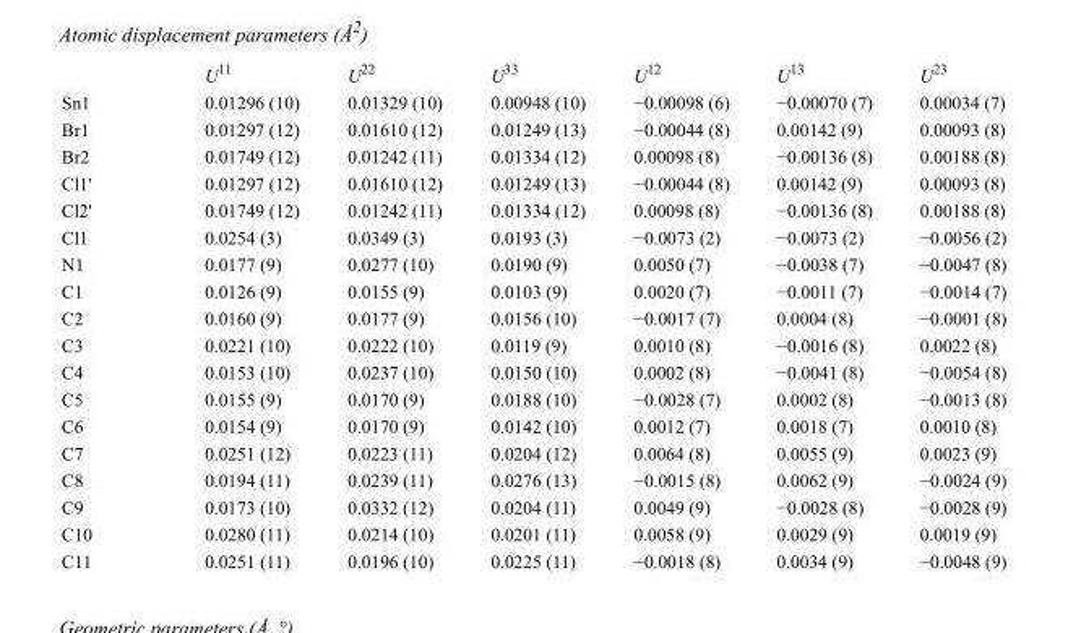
<table><thead><tr><td></td><td>U<sup>11</sup></td><td>U<sup>22</sup></td><td>U<sup>33</sup></td><td>U<sup>12</sup></td><td>U<sup>13</sup></td><td>U<sup>23</sup></td></tr></thead><tbody><tr><td>Sn1</td><td>0.01296 (10)</td><td>0.01329 (10)</td><td>0.00948 (10)</td><td>−0.00098 (6)</td><td>−0.00070 (7)</td><td>0.00034 (7)</td></tr><tr><td>Br1</td><td>0.01297 (12)</td><td>0.01610 (12)</td><td>0.01249 (13)</td><td>−0.00044 (8)</td><td>0.00142 (9)</td><td>0.00093 (8)</td></tr><tr><td>Br2</td><td>0.01749 (12)</td><td>0.01242 (11)</td><td>0.01334 (12)</td><td>0.00098 (8)</td><td>−0.00136 (8)</td><td>0.00188 (8)</td></tr><tr><td>Cl1&#x27;</td><td>0.01297 (12)</td><td>0.01610 (12)</td><td>0.01249 (13)</td><td>−0.00044 (8)</td><td>0.00142 (9)</td><td>0.00093 (8)</td></tr><tr><td>Cl2&#x27;</td><td>0.01749 (12)</td><td>0.01242 (11)</td><td>0.01334 (12)</td><td>0.00098 (8)</td><td>−0.00136 (8)</td><td>0.00188 (8)</td></tr><tr><td>Cl1</td><td>0.0254 (3)</td><td>0.0349 (3)</td><td>0.0193 (3)</td><td>−0.0073 (2)</td><td>−0.0073 (2)</td><td>−0.0056 (2)</td></tr><tr><td>N1</td><td>0.0177 (9)</td><td>0.0277 (10)</td><td>0.0190 (9)</td><td>0.0050 (7)</td><td>−0.0038 (7)</td><td>−0.0047 (8)</td></tr><tr><td>C1</td><td>0.0126 (9)</td><td>0.0155 (9)</td><td>0.0103 (9)</td><td>0.0020 (7)</td><td>−0.0011 (7)</td><td>−0.0014 (7)</td></tr><tr><td>C2</td><td>0.0160 (9)</td><td>0.0177 (9)</td><td>0.0156 (10)</td><td>−0.0017 (7)</td><td>0.0004 (8)</td><td>−0.0001 (8)</td></tr><tr><td>C3</td><td>0.0221 (10)</td><td>0.0222 (10)</td><td>0.0119 (9)</td><td>0.0010 (8)</td><td>−0.0016 (8)</td><td>0.0022 (8)</td></tr><tr><td>C4</td><td>0.0153 (10)</td><td>0.0237 (10)</td><td>0.0150 (10)</td><td>0.0002 (8)</td><td>−0.0041 (8)</td><td>−0.0054 (8)</td></tr><tr><td>C5</td><td>0.0155 (9)</td><td>0.0170 (9)</td><td>0.0188 (10)</td><td>−0.0028 (7)</td><td>0.0002 (8)</td><td>−0.0013 (8)</td></tr><tr><td>C6</td><td>0.0154 (9)</td><td>0.0170 (9)</td><td>0.0142 (10)</td><td>0.0012 (7)</td><td>0.0018 (7)</td><td>0.0010 (8)</td></tr><tr><td>C7</td><td>0.0251 (12)</td><td>0.0223 (11)</td><td>0.0204 (12)</td><td>0.0064 (8)</td><td>0.0055 (9)</td><td>0.0023 (9)</td></tr><tr><td>C8</td><td>0.0194 (11)</td><td>0.0239 (11)</td><td>0.0276 (13)</td><td>−0.0015 (8)</td><td>0.0062 (9)</td><td>−0.0024 (9)</td></tr><tr><td>C9</td><td>0.0173 (10)</td><td>0.0332 (12)</td><td>0.0204 (11)</td><td>0.0049 (9)</td><td>−0.0028 (8)</td><td>−0.0028 (9)</td></tr><tr><td>C10</td><td>0.0280 (11)</td><td>0.0214 (10)</td><td>0.0201 (11)</td><td>0.0058 (9)</td><td>0.0029 (9)</td><td>0.0019 (9)</td></tr><tr><td>C11</td><td>0.0251 (11)</td><td>0.0196 (10)</td><td>0.0225 (11)</td><td>−0.0018 (8)</td><td>0.0034 (9)</td><td>−0.0048 (9)</td></tr></tbody></table>